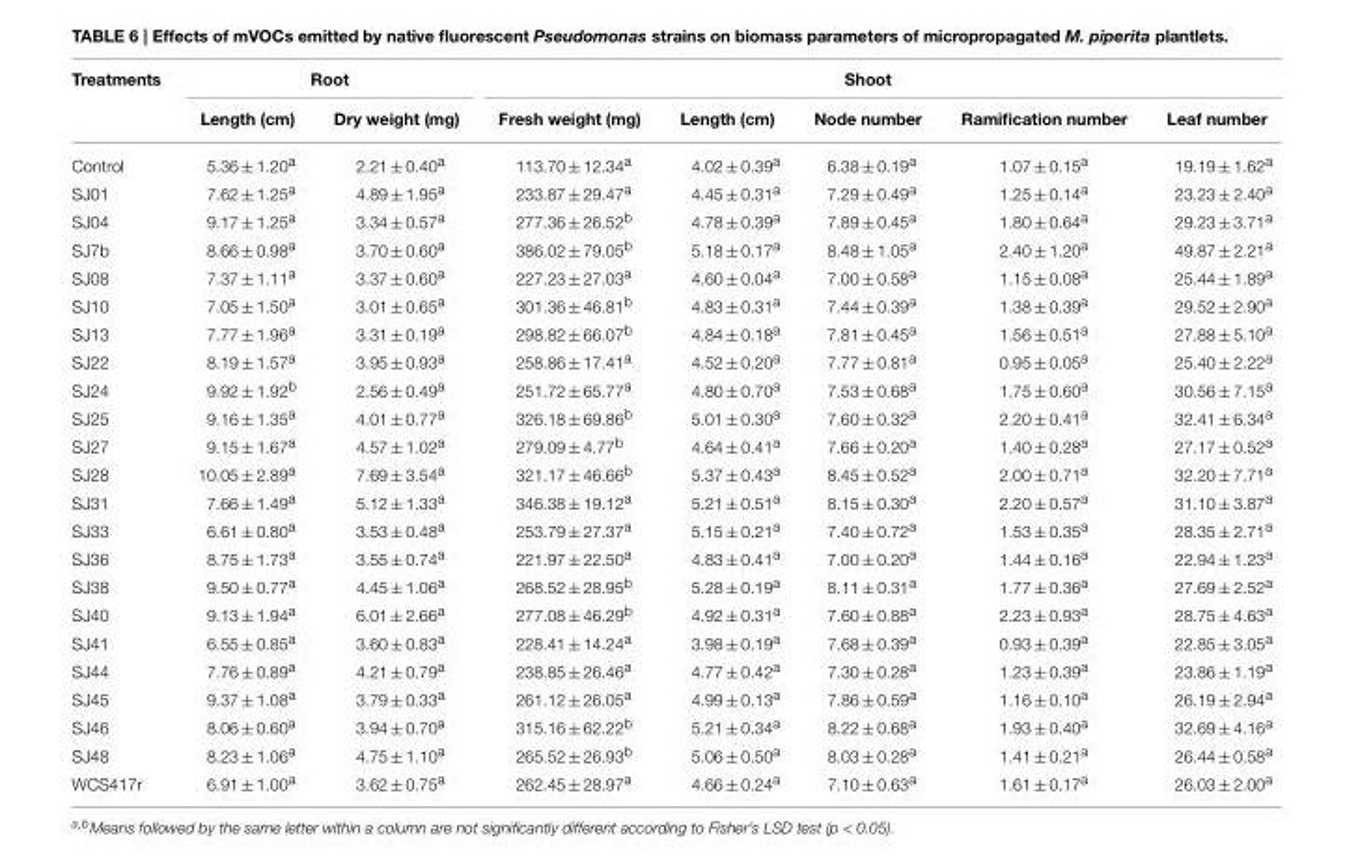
<table><thead><tr><td rowspan="2">Treatments</td><td colspan="2">Root</td><td rowspan="2">Fresh weight (mg)</td><td rowspan="2">Length (cm)</td><td rowspan="2">Shoot Node number</td><td rowspan="2">Ramification number</td><td rowspan="2">Leaf number</td></tr><tr><td>Length (cm)</td><td>Dry weight (mg)</td></tr></thead><tbody><tr><td>Control</td><td>5.36 ± 1.20<sup>a</sup></td><td>2.21 ± 0.40<sup>a</sup></td><td>113.70 ± 12.34<sup>a</sup></td><td>4.02 ± 0.39<sup>a</sup></td><td>6.38 ± 0.19<sup>a</sup></td><td>1.07 ± 0.15<sup>a</sup></td><td>19.19 ± 1.62<sup>a</sup></td></tr><tr><td>SJ01</td><td>7.62 ± 1.25<sup>a</sup></td><td>4.89 ± 1.95<sup>a</sup></td><td>233.87 ± 29.47<sup>a</sup></td><td>4.45 ± 0.31<sup>a</sup></td><td>7.29 ± 0.49<sup>a</sup></td><td>1.25 ± 0.14<sup>a</sup></td><td>23.23 ± 2.40<sup>a</sup></td></tr><tr><td>SJ04</td><td>9.17 ± 1.25<sup>a</sup></td><td>3.34 ± 0.57<sup>a</sup></td><td>277.36 ± 26.52<sup>b</sup></td><td>4.78 ± 0.39<sup>a</sup></td><td>7.89 ± 0.45<sup>a</sup></td><td>1.80 ± 0.64<sup>a</sup></td><td>29.23 ± 3.71<sup>a</sup></td></tr><tr><td>SJ7b</td><td>8.66 ± 0.98<sup>a</sup></td><td>3.70 ± 0.60<sup>a</sup></td><td>386.02 ± 79.05<sup>b</sup></td><td>5.18 ± 0.17<sup>a</sup></td><td>8.48 ± 1.05<sup>a</sup></td><td>2.40 ± 1.20<sup>a</sup></td><td>49.87 ± 2.21<sup>a</sup></td></tr><tr><td>SJ08</td><td>7.37 ± 1.11<sup>a</sup></td><td>3.37 ± 0.60<sup>a</sup></td><td>227.23 ± 27.03<sup>a</sup></td><td>4.60 ± 0.04<sup>a</sup></td><td>7.00 ± 0.58<sup>a</sup></td><td>1.15 ± 0.08<sup>a</sup></td><td>25.44 ± 1.89<sup>a</sup></td></tr><tr><td>SJ10</td><td>7.05 ± 1.50<sup>a</sup></td><td>3.01 ± 0.65<sup>a</sup></td><td>301.36 ± 46.81<sup>b</sup></td><td>4.83 ± 0.31<sup>a</sup></td><td>7.44 ± 0.39<sup>a</sup></td><td>1.38 ± 0.39<sup>a</sup></td><td>29.52 ± 2.90<sup>a</sup></td></tr><tr><td>SJ13</td><td>7.77 ± 1.96<sup>a</sup></td><td>3.31 ± 0.19<sup>a</sup></td><td>298.82 ± 66.07<sup>b</sup></td><td>4.84 ± 0.18<sup>a</sup></td><td>7.81 ± 0.45<sup>a</sup></td><td>1.56 ± 0.51<sup>a</sup></td><td>27.88 ± 5.10<sup>a</sup></td></tr><tr><td>SJ22</td><td>8.19 ± 1.57<sup>a</sup></td><td>3.95 ± 0.93<sup>a</sup></td><td>258.86 ± 17.41<sup>a</sup></td><td>4.52 ± 0.20<sup>a</sup></td><td>7.77 ± 0.81<sup>a</sup></td><td>0.95 ± 0.05<sup>a</sup></td><td>25.40 ± 2.22<sup>a</sup></td></tr><tr><td>SJ24</td><td>9.92 ± 1.92<sup>b</sup></td><td>2.56 ± 0.49<sup>a</sup></td><td>251.72 ± 65.77<sup>a</sup></td><td>4.80 ± 0.70<sup>a</sup></td><td>7.53 ± 0.68<sup>a</sup></td><td>1.75 ± 0.60<sup>a</sup></td><td>30.56 ± 7.15<sup>a</sup></td></tr><tr><td>SJ25</td><td>9.16 ± 1.35<sup>a</sup></td><td>4.01 ± 0.77<sup>a</sup></td><td>326.18 ± 69.86<sup>b</sup></td><td>5.01 ± 0.30<sup>a</sup></td><td>7.60 ± 0.32<sup>a</sup></td><td>2.20 ± 0.41<sup>a</sup></td><td>32.41 ± 6.34<sup>a</sup></td></tr><tr><td>SJ27</td><td>9.15 ± 1.67<sup>a</sup></td><td>4.57 ± 1.02<sup>a</sup></td><td>279.09 ± 4.77<sup>b</sup></td><td>4.64 ± 0.41<sup>a</sup></td><td>7.66 ± 0.20<sup>a</sup></td><td>1.40 ± 0.28<sup>a</sup></td><td>27.17 ± 0.52<sup>a</sup></td></tr><tr><td>SJ28</td><td>10.05 ± 2.89<sup>a</sup></td><td>7.69 ± 3.54<sup>a</sup></td><td>321.17 ± 46.66<sup>b</sup></td><td>5.37 ± 0.43<sup>a</sup></td><td>8.45 ± 0.52<sup>a</sup></td><td>2.00 ± 0.71<sup>a</sup></td><td>32.20 ± 7.71<sup>a</sup></td></tr><tr><td>SJ31</td><td>7.66 ± 1.49<sup>a</sup></td><td>5.12 ± 1.33<sup>a</sup></td><td>346.38 ± 19.12<sup>a</sup></td><td>5.21 ± 0.51<sup>a</sup></td><td>8.15 ± 0.30<sup>a</sup></td><td>2.20 ± 0.57<sup>a</sup></td><td>31.10 ± 3.87<sup>a</sup></td></tr><tr><td>SJ33</td><td>6.61 ± 0.80<sup>a</sup></td><td>3.53 ± 0.48<sup>a</sup></td><td>253.79 ± 27.37<sup>a</sup></td><td>5.15 ± 0.21<sup>a</sup></td><td>7.40 ± 0.72<sup>a</sup></td><td>1.53 ± 0.35<sup>a</sup></td><td>28.35 ± 2.71<sup>a</sup></td></tr><tr><td>SJ36</td><td>8.75 ± 1.73<sup>a</sup></td><td>3.55 ± 0.74<sup>a</sup></td><td>221.97 ± 22.50<sup>a</sup></td><td>4.83 ± 0.41<sup>a</sup></td><td>7.00 ± 0.20<sup>a</sup></td><td>1.44 ± 0.16<sup>a</sup></td><td>22.94 ± 1.23<sup>a</sup></td></tr><tr><td>SJ38</td><td>9.50 ± 0.77<sup>a</sup></td><td>4.45 ± 1.06<sup>a</sup></td><td>268.52 ± 28.95<sup>b</sup></td><td>5.28 ± 0.19<sup>a</sup></td><td>8.11 ± 0.31<sup>a</sup></td><td>1.77 ± 0.36<sup>a</sup></td><td>27.69 ± 2.52<sup>a</sup></td></tr><tr><td>SJ40</td><td>9.13 ± 1.94<sup>a</sup></td><td>6.01 ± 2.66<sup>a</sup></td><td>277.08 ± 46.29<sup>b</sup></td><td>4.92 ± 0.31<sup>a</sup></td><td>7.60 ± 0.88<sup>a</sup></td><td>2.23 ± 0.93<sup>a</sup></td><td>28.75 ± 4.63<sup>a</sup></td></tr><tr><td>SJ41</td><td>6.55 ± 0.85<sup>a</sup></td><td>3.60 ± 0.83<sup>a</sup></td><td>228.41 ± 14.24<sup>a</sup></td><td>3.98 ± 0.19<sup>a</sup></td><td>7.68 ± 0.39<sup>a</sup></td><td>0.93 ± 0.39<sup>a</sup></td><td>22.85 ± 3.05<sup>a</sup></td></tr><tr><td>SJ44</td><td>7.76 ± 0.89<sup>a</sup></td><td>4.21 ± 0.79<sup>a</sup></td><td>238.85 ± 26.46<sup>a</sup></td><td>4.77 ± 0.42<sup>a</sup></td><td>7.30 ± 0.28<sup>a</sup></td><td>1.23 ± 0.39<sup>a</sup></td><td>23.86 ± 1.19<sup>a</sup></td></tr><tr><td>SJ45</td><td>9.37 ± 1.08<sup>a</sup></td><td>3.79 ± 0.33<sup>a</sup></td><td>261.12 ± 26.05<sup>a</sup></td><td>4.99 ± 0.13<sup>a</sup></td><td>7.86 ± 0.59<sup>a</sup></td><td>1.16 ± 0.10<sup>a</sup></td><td>26.19 ± 2.94<sup>a</sup></td></tr><tr><td>SJ46</td><td>8.06 ± 0.60<sup>a</sup></td><td>3.94 ± 0.70<sup>a</sup></td><td>315.16 ± 62.22<sup>b</sup></td><td>5.21 ± 0.34<sup>a</sup></td><td>8.22 ± 0.68<sup>a</sup></td><td>1.93 ± 0.40<sup>a</sup></td><td>32.69 ± 4.16<sup>a</sup></td></tr><tr><td>SJ48</td><td>8.23 ± 1.06<sup>a</sup></td><td>4.75 ± 1.10<sup>a</sup></td><td>265.52 ± 26.93<sup>b</sup></td><td>5.06 ± 0.50<sup>a</sup></td><td>8.03 ± 0.28<sup>a</sup></td><td>1.41 ± 0.21<sup>a</sup></td><td>26.44 ± 0.58<sup>a</sup></td></tr><tr><td>WCS417r</td><td>6.91 ± 1.00<sup>a</sup></td><td>3.62 ± 0.75<sup>a</sup></td><td>262.45 ± 28.97<sup>a</sup></td><td>4.66 ± 0.24<sup>a</sup></td><td>7.10 ± 0.63<sup>a</sup></td><td>1.61 ± 0.17<sup>a</sup></td><td>26.03 ± 2.00<sup>a</sup></td></tr></tbody></table>